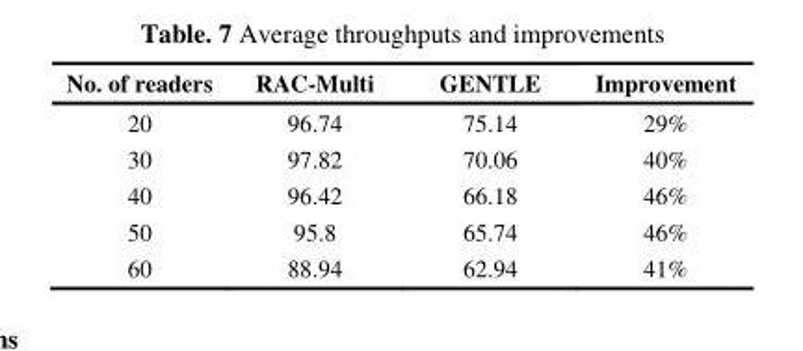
<table><thead><tr><td>No. of readers</td><td>RAC-Multi</td><td>GENTLE</td><td>Improvement</td></tr></thead><tbody><tr><td>20</td><td>96.74</td><td>75.14</td><td>29%</td></tr><tr><td>30</td><td>97.82</td><td>70.06</td><td>40%</td></tr><tr><td>40</td><td>96.42</td><td>66.18</td><td>46%</td></tr><tr><td>50</td><td>95.8</td><td>65.74</td><td>46%</td></tr><tr><td>60</td><td>88.94</td><td>62.94</td><td>41%</td></tr></tbody></table>